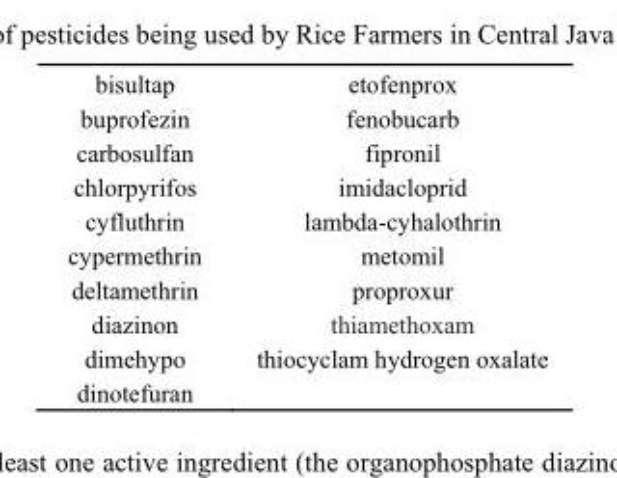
<table><tbody><tr><td>bisultap</td><td>etofenprox</td></tr><tr><td>buprofezin</td><td>fenobucarb</td></tr><tr><td>carbosulfan</td><td>fipronil</td></tr><tr><td>chlorpyrifos</td><td>imidacloprid</td></tr><tr><td>cyfluthrin</td><td>lambda-cyhalothrin</td></tr><tr><td>cypermethrin</td><td>metomil</td></tr><tr><td>deltamethrin</td><td>proproxur</td></tr><tr><td>diazinon</td><td>thiamethoxam</td></tr><tr><td>dimehypo</td><td>thiocyclam hydrogen oxalate</td></tr><tr><td>dinotefuran</td><td></td></tr></tbody></table>